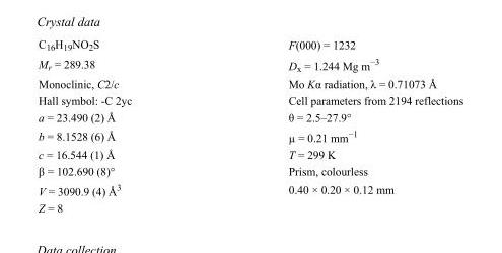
<table><tbody><tr><td>C<sub>16</sub>H<sub>19</sub>NO<sub>2</sub>S</td><td>F(000) = 1232</td></tr><tr><td>M<sub>r</sub> = 289.38</td><td>D<sub>x</sub> = 1.244 Mg m<sup>−3</sup></td></tr><tr><td>Monoclinic, C2/c</td><td>Mo Kα radiation, λ = 0.71073 Å</td></tr><tr><td>Hall symbol: -C 2yc</td><td>Cell parameters from 2194 reflections</td></tr><tr><td>a = 23.490 (2) Å</td><td>θ = 2.5–27.9°</td></tr><tr><td>b = 8.1528 (6) Å</td><td>µ = 0.21 mm<sup>−1</sup></td></tr><tr><td>c = 16.544 (1) Å</td><td>T = 299 K</td></tr><tr><td>β = 102.690 (8)°</td><td>Prism, colourless</td></tr><tr><td>V = 3090.9 (4) Å<sup>3</sup></td><td>0.40 × 0.20 × 0.12 mm</td></tr><tr><td>Z = 8</td><td></td></tr></tbody></table>